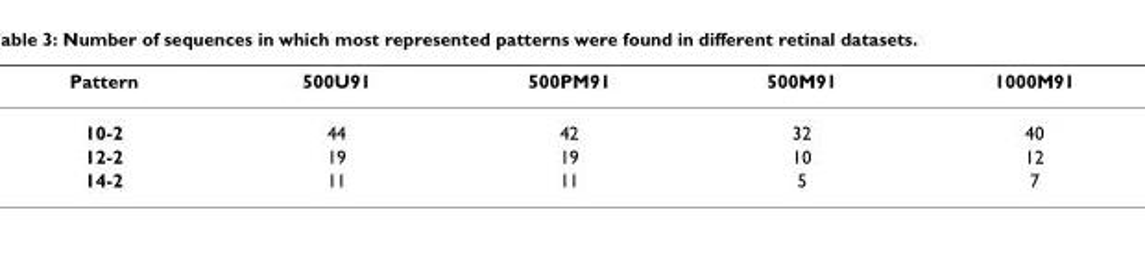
<table><thead><tr><td>Pattern</td><td>500U91</td><td>500PM91</td><td>500M91</td><td>1000M91</td></tr></thead><tbody><tr><td>10-2</td><td>44</td><td>42</td><td>32</td><td>40</td></tr><tr><td>12-2</td><td>19</td><td>19</td><td>10</td><td>12</td></tr><tr><td>14-2</td><td>11</td><td>11</td><td>5</td><td>7</td></tr></tbody></table>